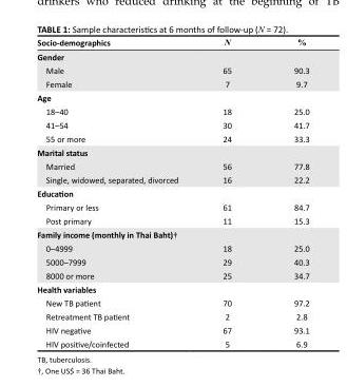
<table><thead><tr><td>Socio-demographics</td><td>N</td><td>%</td></tr></thead><tbody><tr><td colspan="3">Gender</td></tr><tr><td>Male</td><td>65</td><td>90.3</td></tr><tr><td>Female</td><td>7</td><td>9.7</td></tr><tr><td colspan="3">Age</td></tr><tr><td>18–40</td><td>18</td><td>25.0</td></tr><tr><td>41–54</td><td>30</td><td>41.7</td></tr><tr><td>55 or more</td><td>24</td><td>33.3</td></tr><tr><td colspan="3">Marital status</td></tr><tr><td>Married</td><td>56</td><td>77.8</td></tr><tr><td>Single, widowed, separated, divorced</td><td>16</td><td>22.2</td></tr><tr><td colspan="3">Education</td></tr><tr><td>Primary or less</td><td>61</td><td>84.7</td></tr><tr><td>Post primary</td><td>11</td><td>15.3</td></tr><tr><td colspan="3">Family income (monthly in Thai Baht)†</td></tr><tr><td>0–4999</td><td>18</td><td>25.0</td></tr><tr><td>5000–7999</td><td>29</td><td>40.3</td></tr><tr><td>8000 or more</td><td>25</td><td>34.7</td></tr><tr><td colspan="3">Health variables</td></tr><tr><td>New TB patient</td><td>70</td><td>97.2</td></tr><tr><td>Retreatment TB patient</td><td>2</td><td>2.8</td></tr><tr><td>HIV negative</td><td>67</td><td>93.1</td></tr><tr><td>HIV positive/coinfected</td><td>5</td><td>6.9</td></tr></tbody></table>